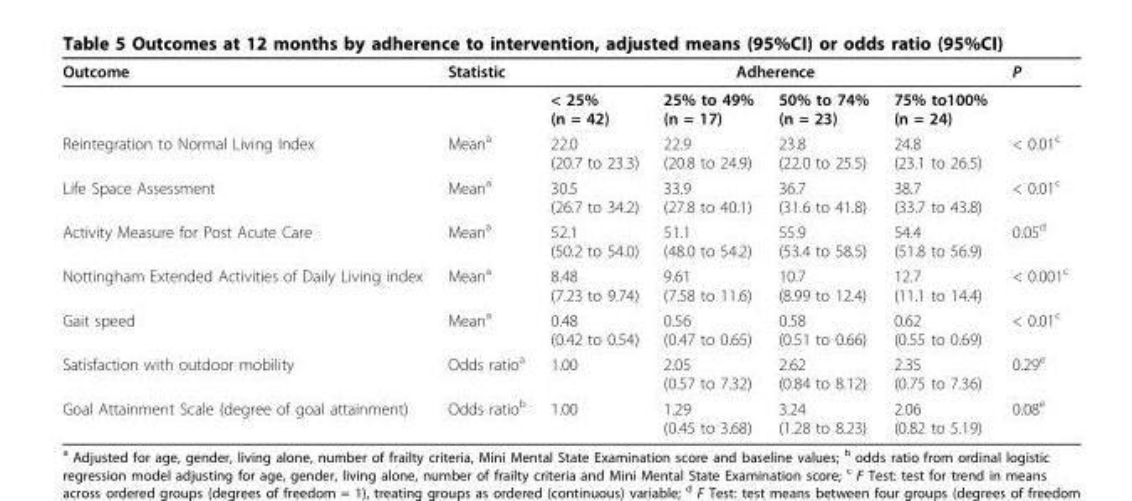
<table><thead><tr><td rowspan="2">Outcome</td><td rowspan="2">Statistic</td><td colspan="4">Adherence</td><td rowspan="2">P</td></tr><tr><td>&lt; 25% (n = 42)</td><td>25% to 49% (n = 17)</td><td>50% to 74% (n = 23)</td><td>75% to100% (n = 24)</td></tr></thead><tbody><tr><td>Reintegration to Normal Living Index</td><td>Mean<sup>a</sup></td><td>22.0 (20.7 to 23.3)</td><td>22.9 (20.8 to 24.9)</td><td>23.8 (22.0 to 25.5)</td><td>24.8 (23.1 to 26.5)</td><td>&lt; 0.01<sup>c</sup></td></tr><tr><td>Life Space Assessment</td><td>Mean<sup>a</sup></td><td>30.5 (26.7 to 34.2)</td><td>33.9 (27.8 to 40.1)</td><td>36.7 (31.6 to 41.8)</td><td>38.7 (33.7 to 43.8)</td><td>&lt; 0.01<sup>c</sup></td></tr><tr><td>Activity Measure for Post Acute Care</td><td>Mean<sup>a</sup></td><td>52.1 (50.2 to 54.0)</td><td>51.1 (48.0 to 54.2)</td><td>55.9 (53.4 to 58.5)</td><td>54.4 (51.8 to 56.9)</td><td>0.05<sup>d</sup></td></tr><tr><td>Nottingham Extended Activities of Daily Living index</td><td>Mean<sup>a</sup></td><td>8.48 (7.23 to 9.74)</td><td>9.61 (7.58 to 11.6)</td><td>10.7 (8.99 to 12.4)</td><td>12.7 (11.1 to 14.4)</td><td>&lt; 0.001<sup>c</sup></td></tr><tr><td>Gait speed</td><td>Mean<sup>a</sup></td><td>0.48 (0.42 to 0.54)</td><td>0.56 (0.47 to 0.65)</td><td>0.58 (0.51 to 0.66)</td><td>0.62 (0.55 to 0.69)</td><td>&lt; 0.01<sup>c</sup></td></tr><tr><td>Satisfaction with outdoor mobility</td><td>Odds ratio<sup>a</sup></td><td>1.00</td><td>2.05 (0.57 to 7.32)</td><td>2.62 (0.84 to 8.12)</td><td>2.35 (0.75 to 7.36)</td><td>0.29<sup>e</sup></td></tr><tr><td>Goal Attainment Scale (degree of goal attainment)</td><td>Odds ratio<sup>b</sup></td><td>1.00</td><td>1.29 (0.45 to 3.68)</td><td>3.24 (1.28 to 8.23)</td><td>2.06 (0.82 to 5.19)</td><td>0.08<sup>e</sup></td></tr></tbody></table>